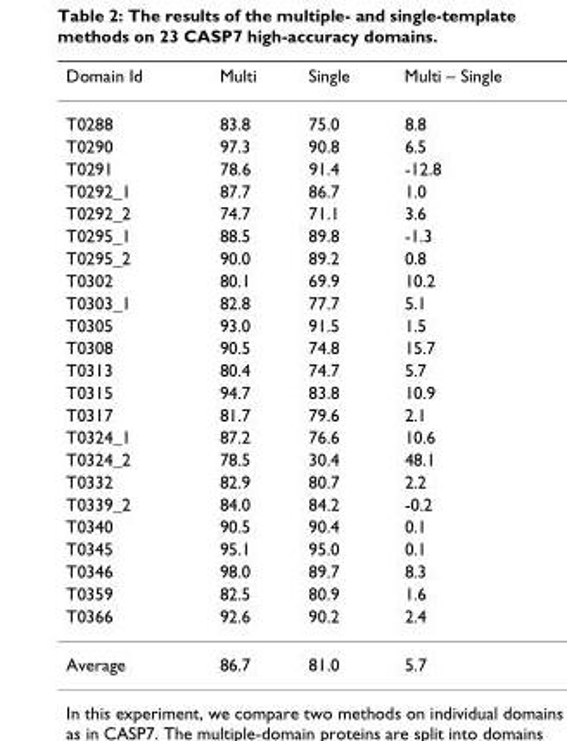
<table><thead><tr><td>Domain Id</td><td>Multi</td><td>Single</td><td>Multi – Single</td></tr></thead><tbody><tr><td>T0288</td><td>83.8</td><td>75.0</td><td>8.8</td></tr><tr><td>T0290</td><td>97.3</td><td>90.8</td><td>6.5</td></tr><tr><td>T0291</td><td>78.6</td><td>91.4</td><td>-12.8</td></tr><tr><td>T0292_1</td><td>87.7</td><td>86.7</td><td>1.0</td></tr><tr><td>T0292_2</td><td>74.7</td><td>71.1</td><td>3.6</td></tr><tr><td>T0295_1</td><td>88.5</td><td>89.8</td><td>-1.3</td></tr><tr><td>T0295_2</td><td>90.0</td><td>89.2</td><td>0.8</td></tr><tr><td>T0302</td><td>80.1</td><td>69.9</td><td>10.2</td></tr><tr><td>T0303_1</td><td>82.8</td><td>77.7</td><td>5.1</td></tr><tr><td>T0305</td><td>93.0</td><td>91.5</td><td>1.5</td></tr><tr><td>T0308</td><td>90.5</td><td>74.8</td><td>15.7</td></tr><tr><td>T0313</td><td>80.4</td><td>74.7</td><td>5.7</td></tr><tr><td>T0315</td><td>94.7</td><td>83.8</td><td>10.9</td></tr><tr><td>T0317</td><td>81.7</td><td>79.6</td><td>2.1</td></tr><tr><td>T0324_1</td><td>87.2</td><td>76.6</td><td>10.6</td></tr><tr><td>T0324_2</td><td>78.5</td><td>30.4</td><td>48.1</td></tr><tr><td>T0332</td><td>82.9</td><td>80.7</td><td>2.2</td></tr><tr><td>T0339_2</td><td>84.0</td><td>84.2</td><td>-0.2</td></tr><tr><td>T0340</td><td>90.5</td><td>90.4</td><td>0.1</td></tr><tr><td>T0345</td><td>95.1</td><td>95.0</td><td>0.1</td></tr><tr><td>T0346</td><td>98.0</td><td>89.7</td><td>8.3</td></tr><tr><td>T0359</td><td>82.5</td><td>80.9</td><td>1.6</td></tr><tr><td>T0366</td><td>92.6</td><td>90.2</td><td>2.4</td></tr><tr><td>Average</td><td>86.7</td><td>81.0</td><td>5.7</td></tr></tbody></table>